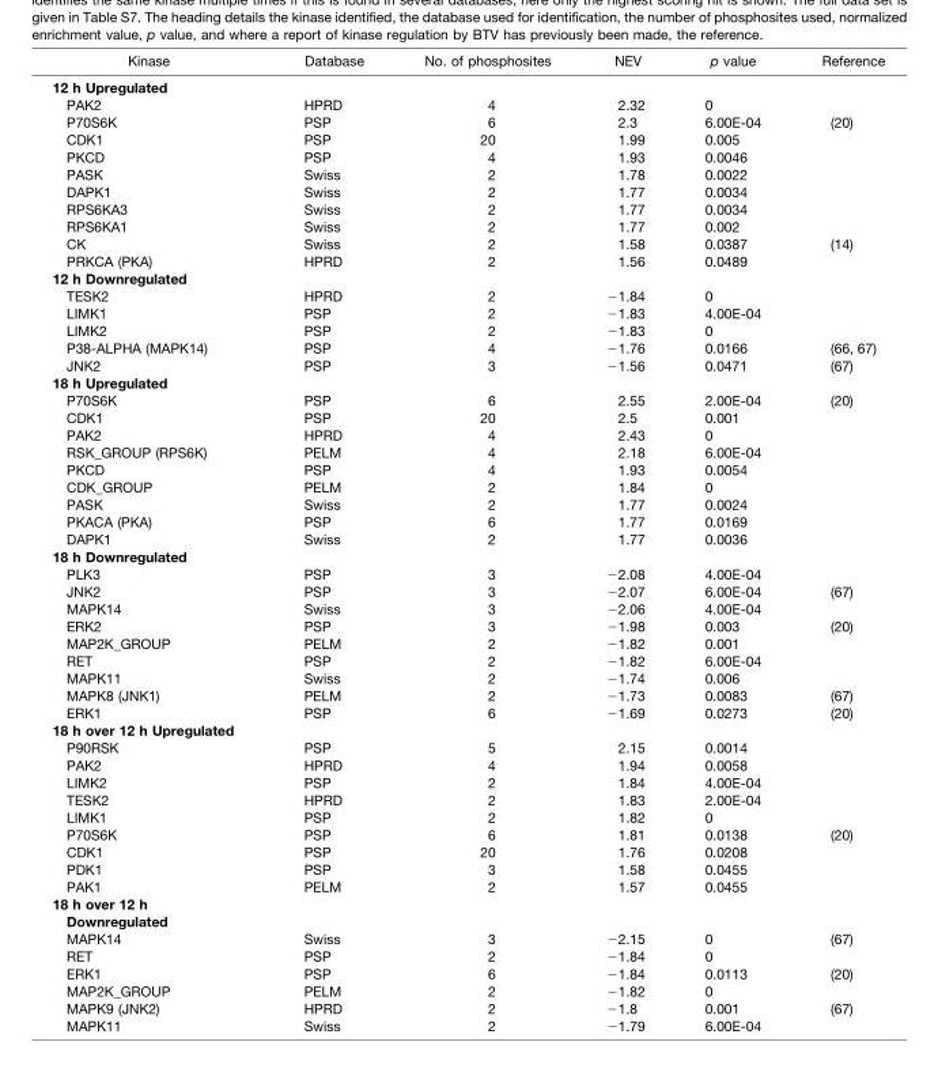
<table><thead><tr><td>Kinase</td><td>Database</td><td>No. of phosphosites</td><td>NEV</td><td>p value</td><td>Reference</td></tr></thead><tbody><tr><td colspan="6">12 h Upregulated</td></tr><tr><td>PAK2</td><td>HPRD</td><td>4</td><td>2.32</td><td>0</td><td></td></tr><tr><td>P70S6K</td><td>PSP</td><td>6</td><td>2.3</td><td>6.00E-04</td><td>(20)</td></tr><tr><td>CDK1</td><td>PSP</td><td>20</td><td>1.99</td><td>0.005</td><td></td></tr><tr><td>PKCD</td><td>PSP</td><td>4</td><td>1.93</td><td>0.0046</td><td></td></tr><tr><td>PASK</td><td>Swiss</td><td>2</td><td>1.78</td><td>0.0022</td><td></td></tr><tr><td>DAPK1</td><td>Swiss</td><td>2</td><td>1.77</td><td>0.0034</td><td></td></tr><tr><td>RPS6KA3</td><td>Swiss</td><td>2</td><td>1.77</td><td>0.0034</td><td></td></tr><tr><td>RPS6KA1</td><td>Swiss</td><td>2</td><td>1.77</td><td>0.002</td><td></td></tr><tr><td>CK</td><td>Swiss</td><td>2</td><td>1.58</td><td>0.0387</td><td>(14)</td></tr><tr><td>PRKCA (PKA)</td><td>HPRD</td><td>2</td><td>1.56</td><td>0.0489</td><td></td></tr><tr><td colspan="6">12 h Downregulated</td></tr><tr><td>TESK2</td><td>HPRD</td><td>2</td><td>−1.84</td><td>0</td><td></td></tr><tr><td>LIMK1</td><td>PSP</td><td>2</td><td>−1.83</td><td>4.00E-04</td><td></td></tr><tr><td>LIMK2</td><td>PSP</td><td>2</td><td>−1.83</td><td>0</td><td></td></tr><tr><td>P38-ALPHA (MAPK14)</td><td>PSP</td><td>4</td><td>−1.76</td><td>0.0166</td><td>(66, 67)</td></tr><tr><td>JNK2</td><td>PSP</td><td>3</td><td>−1.56</td><td>0.0471</td><td>(67)</td></tr><tr><td colspan="6">18 h Upregulated</td></tr><tr><td>P70S6K</td><td>PSP</td><td>6</td><td>2.55</td><td>2.00E-04</td><td>(20)</td></tr><tr><td>CDK1</td><td>PSP</td><td>20</td><td>2.5</td><td>0.001</td><td></td></tr><tr><td>PAK2</td><td>HPRD</td><td>4</td><td>2.43</td><td>0</td><td></td></tr><tr><td>RSK_GROUP (RPS6K)</td><td>PELM</td><td>4</td><td>2.18</td><td>6.00E-04</td><td></td></tr><tr><td>PKCD</td><td>PSP</td><td>4</td><td>1.93</td><td>0.0054</td><td></td></tr><tr><td>CDK_GROUP</td><td>PELM</td><td>2</td><td>1.84</td><td>0</td><td></td></tr><tr><td>PASK</td><td>Swiss</td><td>2</td><td>1.77</td><td>0.0024</td><td></td></tr><tr><td>PKACA (PKA)</td><td>PSP</td><td>6</td><td>1.77</td><td>0.0169</td><td></td></tr><tr><td>DAPK1</td><td>Swiss</td><td>2</td><td>1.77</td><td>0.0036</td><td></td></tr><tr><td colspan="6">18 h Downregulated</td></tr><tr><td>PLK3</td><td>PSP</td><td>3</td><td>−2.08</td><td>4.00E-04</td><td></td></tr><tr><td>JNK2</td><td>PSP</td><td>3</td><td>−2.07</td><td>6.00E-04</td><td>(67)</td></tr><tr><td>MAPK14</td><td>Swiss</td><td>3</td><td>−2.06</td><td>4.00E-04</td><td></td></tr><tr><td>ERK2</td><td>PSP</td><td>3</td><td>−1.98</td><td>0.003</td><td>(20)</td></tr><tr><td>MAP2K_GROUP</td><td>PELM</td><td>2</td><td>−1.82</td><td>0.001</td><td></td></tr><tr><td>RET</td><td>PSP</td><td>2</td><td>−1.82</td><td>6.00E-04</td><td></td></tr><tr><td>MAPK11</td><td>Swiss</td><td>2</td><td>−1.74</td><td>0.006</td><td></td></tr><tr><td>MAPK8 (JNK1)</td><td>PELM</td><td>2</td><td>−1.73</td><td>0.0083</td><td>(67)</td></tr><tr><td>ERK1</td><td>PSP</td><td>6</td><td>−1.69</td><td>0.0273</td><td>(20)</td></tr><tr><td colspan="6">18 h over 12 h Upregulated</td></tr><tr><td>P90RSK</td><td>PSP</td><td>5</td><td>2.15</td><td>0.0014</td><td></td></tr><tr><td>PAK2</td><td>HPRD</td><td>4</td><td>1.94</td><td>0.0058</td><td></td></tr><tr><td>LIMK2</td><td>PSP</td><td>2</td><td>1.84</td><td>4.00E-04</td><td></td></tr><tr><td>TESK2</td><td>HPRD</td><td>2</td><td>1.83</td><td>2.00E-04</td><td></td></tr><tr><td>LIMK1</td><td>PSP</td><td>2</td><td>1.82</td><td>0</td><td></td></tr><tr><td>P70S6K</td><td>PSP</td><td>6</td><td>1.81</td><td>0.0138</td><td>(20)</td></tr><tr><td>CDK1</td><td>PSP</td><td>20</td><td>1.76</td><td>0.0208</td><td></td></tr><tr><td>PDK1</td><td>PSP</td><td>3</td><td>1.58</td><td>0.0455</td><td></td></tr><tr><td>PAK1</td><td>PELM</td><td>2</td><td>1.57</td><td>0.0455</td><td></td></tr><tr><td colspan="6">18 h over 12 h Downregulated</td></tr><tr><td>MAPK14</td><td>Swiss</td><td>3</td><td>−2.15</td><td>0</td><td>(67)</td></tr><tr><td>RET</td><td>PSP</td><td>2</td><td>−1.84</td><td>0</td><td></td></tr><tr><td>ERK1</td><td>PSP</td><td>6</td><td>−1.84</td><td>0.0113</td><td>(20)</td></tr><tr><td>MAP2K_GROUP</td><td>PELM</td><td>2</td><td>−1.82</td><td>0</td><td></td></tr><tr><td>MAPK9 (JNK2)</td><td>HPRD</td><td>2</td><td>−1.8</td><td>0.001</td><td>(67)</td></tr><tr><td>MAPK11</td><td>Swiss</td><td>2</td><td>−1.79</td><td>6.00E-04</td><td></td></tr></tbody></table>